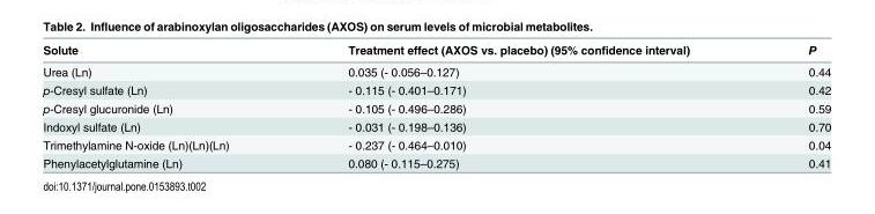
<table><thead><tr><td>Solute</td><td>Treatment effect (AXOS vs. placebo) (95% confidence interval)</td><td>P</td></tr></thead><tbody><tr><td>Urea (Ln)</td><td>0.035 (- 0.056–0.127)</td><td>0.44</td></tr><tr><td>p-Cresyl sulfate (Ln)</td><td>- 0.115 (- 0.401–0.171)</td><td>0.42</td></tr><tr><td>p-Cresyl glucuronide (Ln)</td><td>- 0.105 (- 0.496–0.286)</td><td>0.59</td></tr><tr><td>Indoxyl sulfate (Ln)</td><td>- 0.031 (- 0.198–0.136)</td><td>0.70</td></tr><tr><td>Trimethylamine N-oxide (Ln)(Ln)(Ln)</td><td>- 0.237 (- 0.464–0.010)</td><td>0.04</td></tr><tr><td>Phenylacetylglutamine (Ln)</td><td>0.080 (- 0.115–0.275)</td><td>0.41</td></tr></tbody></table>